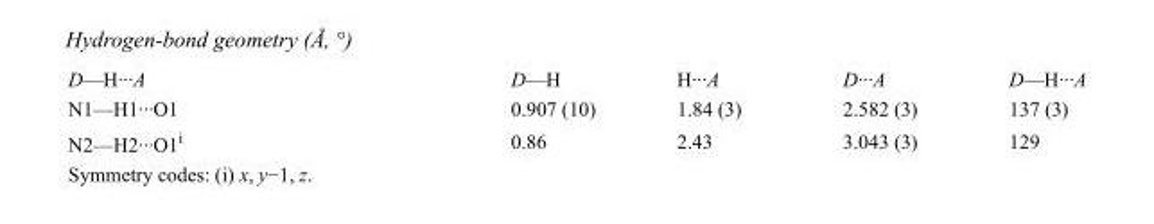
<table><tbody><tr><td>D—H···A</td><td>D—H</td><td>H···A</td><td>D···A</td><td>D—H···A</td></tr><tr><td>N1—H1···O1</td><td>0.907 (10)</td><td>1.84 (3)</td><td>2.582 (3)</td><td>137 (3)</td></tr><tr><td>N2—H2···O1<sup>i</sup></td><td>0.86</td><td>2.43</td><td>3.043 (3)</td><td>129</td></tr></tbody></table>